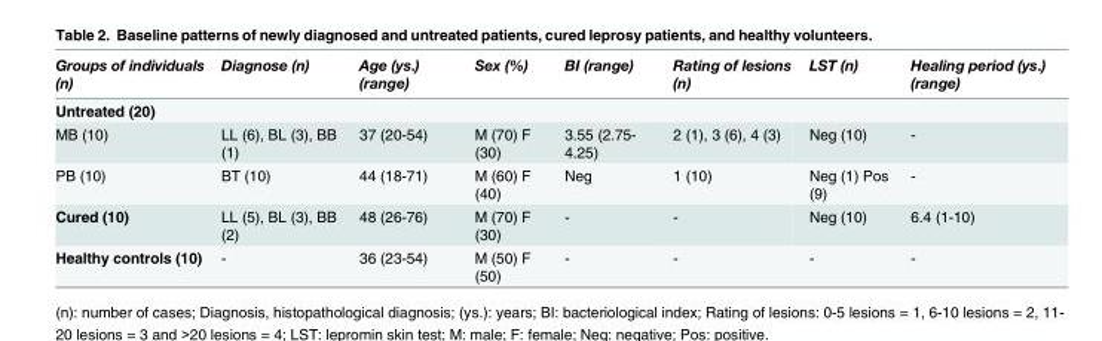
<table><thead><tr><td>Groups of individuals (n)</td><td>Diagnose (n)</td><td>Age (ys.) (range)</td><td>Sex (%)</td><td>BI (range)</td><td>Rating of lesions (n)</td><td>LST (n)</td><td>Healing period (ys.) (range)</td></tr></thead><tbody><tr><td colspan="8">Untreated (20)</td></tr><tr><td>MB (10)</td><td>LL (6), BL (3), BB (1)</td><td>37 (20-54)</td><td>M (70) F (30)</td><td>3.55 (2.75- 4.25)</td><td>2 (1), 3 (6), 4 (3)</td><td>Neg (10)</td><td>-</td></tr><tr><td>PB (10)</td><td>BT (10)</td><td>44 (18-71)</td><td>M (60) F (40)</td><td>Neg</td><td>1 (10)</td><td>Neg (1) Pos (9)</td><td>-</td></tr><tr><td>Cured (10)</td><td>LL (5), BL (3), BB (2)</td><td>48 (26-76)</td><td>M (70) F (30)</td><td>-</td><td>-</td><td>Neg (10)</td><td>6.4 (1-10)</td></tr><tr><td>Healthy controls (10)</td><td>-</td><td>36 (23-54)</td><td>M (50) F (50)</td><td>-</td><td>-</td><td>-</td><td>-</td></tr></tbody></table>